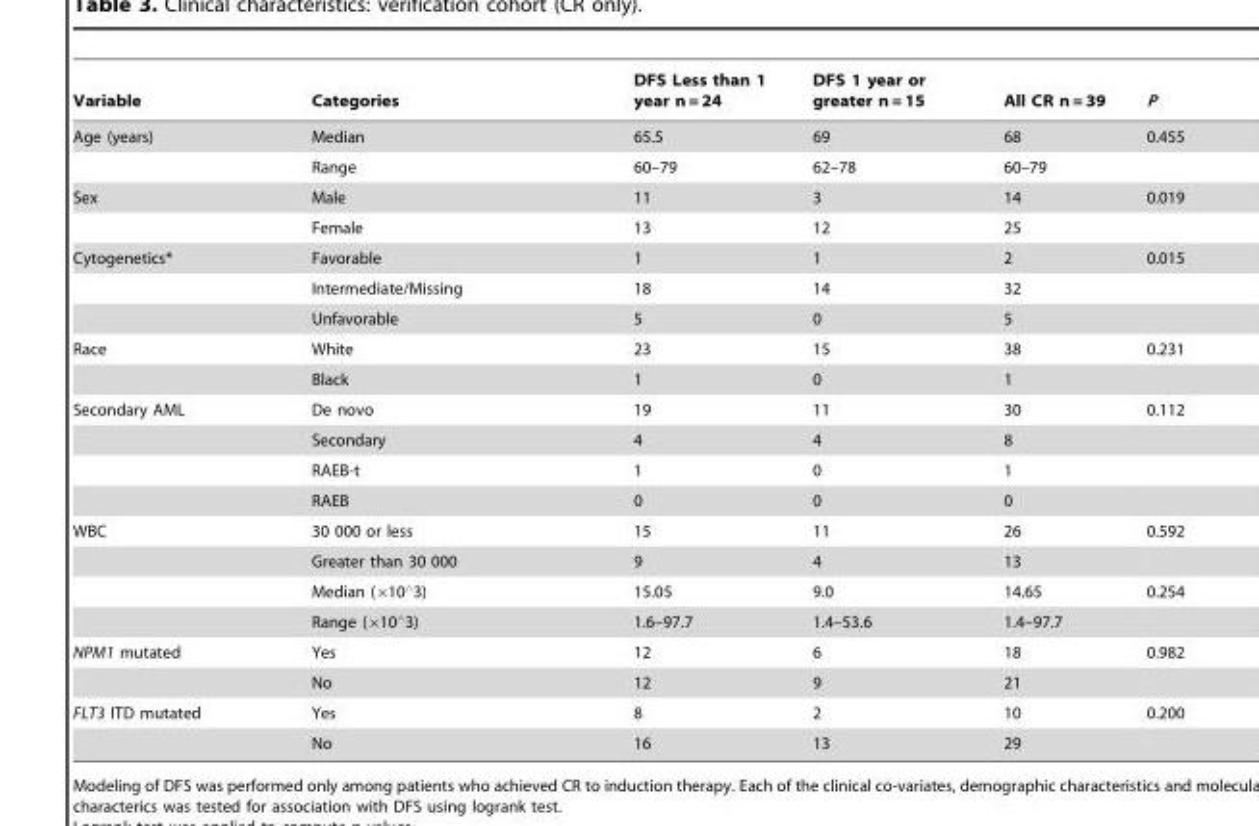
<table><thead><tr><td>Variable</td><td>Categories</td><td>DFS Less than 1 year n = 24</td><td>DFS 1 year or greater n = 15</td><td>All CR n = 39</td><td>P</td></tr></thead><tbody><tr><td rowspan="2">Age (years)</td><td>Median</td><td>65.5</td><td>69</td><td>68</td><td>0.455</td></tr><tr><td>Range</td><td>60–79</td><td>62–78</td><td>60–79</td><td></td></tr><tr><td rowspan="2">Sex</td><td>Male</td><td>11</td><td>3</td><td>14</td><td>0.019</td></tr><tr><td>Female</td><td>13</td><td>12</td><td>25</td><td></td></tr><tr><td rowspan="3">Cytogenetics*</td><td>Favorable</td><td>1</td><td>1</td><td>2</td><td>0.015</td></tr><tr><td>Intermediate/Missing</td><td>18</td><td>14</td><td>32</td><td></td></tr><tr><td>Unfavorable</td><td>5</td><td>0</td><td>5</td><td></td></tr><tr><td rowspan="2">Race</td><td>White</td><td>23</td><td>15</td><td>38</td><td>0.231</td></tr><tr><td>Black</td><td>1</td><td>0</td><td>1</td><td></td></tr><tr><td rowspan="4">Secondary AML</td><td>De novo</td><td>19</td><td>11</td><td>30</td><td>0.112</td></tr><tr><td>Secondary</td><td>4</td><td>4</td><td>8</td><td></td></tr><tr><td>RAEB-t</td><td>1</td><td>0</td><td>1</td><td></td></tr><tr><td>RAEB</td><td>0</td><td>0</td><td>0</td><td></td></tr><tr><td rowspan="4">WBC</td><td>30 000 or less</td><td>15</td><td>11</td><td>26</td><td>0.592</td></tr><tr><td>Greater than 30 000</td><td>9</td><td>4</td><td>13</td><td></td></tr><tr><td>Median (610‘3)</td><td>15.05</td><td>9.0</td><td>14.65</td><td>0.254</td></tr><tr><td>Range (610‘3)</td><td>1.6–97.7</td><td>1.4–53.6</td><td>1.4–97.7</td><td></td></tr><tr><td rowspan="2">NPM1 mutated</td><td>Yes</td><td>12</td><td>6</td><td>18</td><td>0.982</td></tr><tr><td>No</td><td>12</td><td>9</td><td>21</td><td></td></tr><tr><td rowspan="2">FLT3 ITD mutated</td><td>Yes</td><td>8</td><td>2</td><td>10</td><td>0.200</td></tr><tr><td>No</td><td>16</td><td>13</td><td>29</td><td></td></tr></tbody></table>